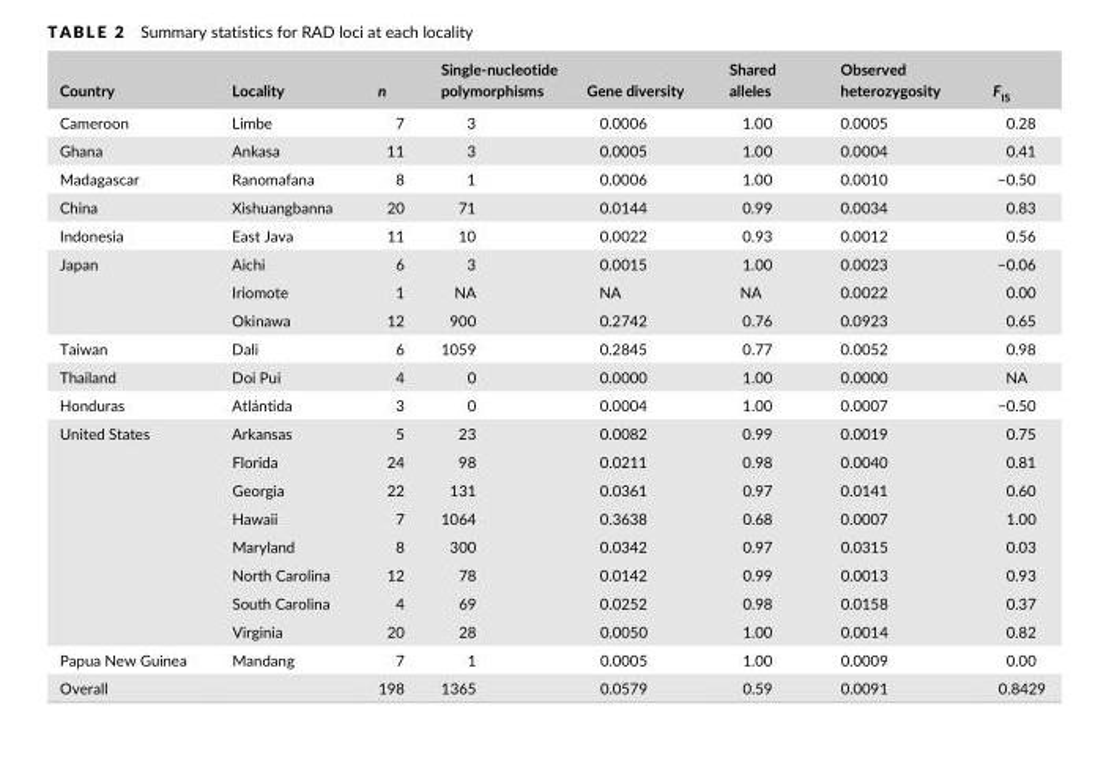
<table><thead><tr><td>Country</td><td>Locality</td><td>n</td><td>Single- nucleotide polymorphisms</td><td>Gene diversity</td><td>Shared alleles</td><td>Observed heterozygosity</td><td>F<sub>IS</sub></td></tr></thead><tbody><tr><td>Cameroon</td><td>Limbe</td><td>7</td><td>3</td><td>0.0006</td><td>1.00</td><td>0.0005</td><td>0.28</td></tr><tr><td>Ghana</td><td>Ankasa</td><td>11</td><td>3</td><td>0.0005</td><td>1.00</td><td>0.0004</td><td>0.41</td></tr><tr><td>Madagascar</td><td>Ranomafana</td><td>8</td><td>1</td><td>0.0006</td><td>1.00</td><td>0.0010</td><td>−0.50</td></tr><tr><td>China</td><td>Xishuangbanna</td><td>20</td><td>71</td><td>0.0144</td><td>0.99</td><td>0.0034</td><td>0.83</td></tr><tr><td>Indonesia</td><td>East Java</td><td>11</td><td>10</td><td>0.0022</td><td>0.93</td><td>0.0012</td><td>0.56</td></tr><tr><td rowspan="3">Japan</td><td>Aichi</td><td>6</td><td>3</td><td>0.0015</td><td>1.00</td><td>0.0023</td><td>−0.06</td></tr><tr><td>Iriomote</td><td>1</td><td>NA</td><td>NA</td><td>NA</td><td>0.0022</td><td>0.00</td></tr><tr><td>Okinawa</td><td>12</td><td>900</td><td>0.2742</td><td>0.76</td><td>0.0923</td><td>0.65</td></tr><tr><td>Taiwan</td><td>Dali</td><td>6</td><td>1059</td><td>0.2845</td><td>0.77</td><td>0.0052</td><td>0.98</td></tr><tr><td>Thailand</td><td>Doi Pui</td><td>4</td><td>0</td><td>0.0000</td><td>1.00</td><td>0.0000</td><td>NA</td></tr><tr><td>Honduras</td><td>Atlántida</td><td>3</td><td>0</td><td>0.0004</td><td>1.00</td><td>0.0007</td><td>−0.50</td></tr><tr><td rowspan="8">United States</td><td>Arkansas</td><td>5</td><td>23</td><td>0.0082</td><td>0.99</td><td>0.0019</td><td>0.75</td></tr><tr><td>Florida</td><td>24</td><td>98</td><td>0.0211</td><td>0.98</td><td>0.0040</td><td>0.81</td></tr><tr><td>Georgia</td><td>22</td><td>131</td><td>0.0361</td><td>0.97</td><td>0.0141</td><td>0.60</td></tr><tr><td>Hawaii</td><td>7</td><td>1064</td><td>0.3638</td><td>0.68</td><td>0.0007</td><td>1.00</td></tr><tr><td>Maryland</td><td>8</td><td>300</td><td>0.0342</td><td>0.97</td><td>0.0315</td><td>0.03</td></tr><tr><td>North Carolina</td><td>12</td><td>78</td><td>0.0142</td><td>0.99</td><td>0.0013</td><td>0.93</td></tr><tr><td>South Carolina</td><td>4</td><td>69</td><td>0.0252</td><td>0.98</td><td>0.0158</td><td>0.37</td></tr><tr><td>Virginia</td><td>20</td><td>28</td><td>0.0050</td><td>1.00</td><td>0.0014</td><td>0.82</td></tr><tr><td>Papua New Guinea</td><td>Mandang</td><td>7</td><td>1</td><td>0.0005</td><td>1.00</td><td>0.0009</td><td>0.00</td></tr><tr><td>Overall</td><td></td><td>198</td><td>1365</td><td>0.0579</td><td>0.59</td><td>0.0091</td><td>0.8429</td></tr></tbody></table>